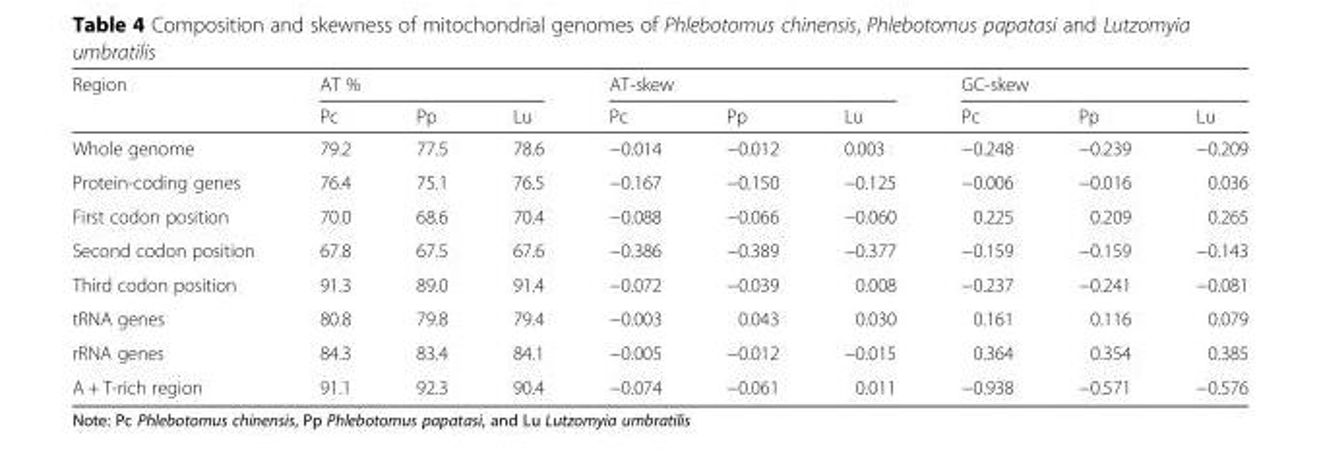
<table><thead><tr><td rowspan="2">Region</td><td colspan="3">AT %</td><td colspan="3">AT-skew</td><td colspan="3">GC-skew</td></tr><tr><td>Pc</td><td>Pp</td><td>Lu</td><td>Pc</td><td>Pp</td><td>Lu</td><td>Pc</td><td>Pp</td><td>Lu</td></tr></thead><tbody><tr><td>Whole genome</td><td>79.2</td><td>77.5</td><td>78.6</td><td>−0.014</td><td>−0.012</td><td>0.003</td><td>−0.248</td><td>−0.239</td><td>−0.209</td></tr><tr><td>Protein-coding genes</td><td>76.4</td><td>75.1</td><td>76.5</td><td>−0.167</td><td>−0.150</td><td>−0.125</td><td>−0.006</td><td>−0.016</td><td>0.036</td></tr><tr><td>First codon position</td><td>70.0</td><td>68.6</td><td>70.4</td><td>−0.088</td><td>−0.066</td><td>−0.060</td><td>0.225</td><td>0.209</td><td>0.265</td></tr><tr><td>Second codon position</td><td>67.8</td><td>67.5</td><td>67.6</td><td>−0.386</td><td>−0.389</td><td>−0.377</td><td>−0.159</td><td>−0.159</td><td>−0.143</td></tr><tr><td>Third codon position</td><td>91.3</td><td>89.0</td><td>91.4</td><td>−0.072</td><td>−0.039</td><td>0.008</td><td>−0.237</td><td>−0.241</td><td>−0.081</td></tr><tr><td>tRNA genes</td><td>80.8</td><td>79.8</td><td>79.4</td><td>−0.003</td><td>0.043</td><td>0.030</td><td>0.161</td><td>0.116</td><td>0.079</td></tr><tr><td>rRNA genes</td><td>84.3</td><td>83.4</td><td>84.1</td><td>−0.005</td><td>−0.012</td><td>−0.015</td><td>0.364</td><td>0.354</td><td>0.385</td></tr><tr><td>A + T-rich region</td><td>91.1</td><td>92.3</td><td>90.4</td><td>−0.074</td><td>−0.061</td><td>0.011</td><td>−0.938</td><td>−0.571</td><td>−0.576</td></tr></tbody></table>